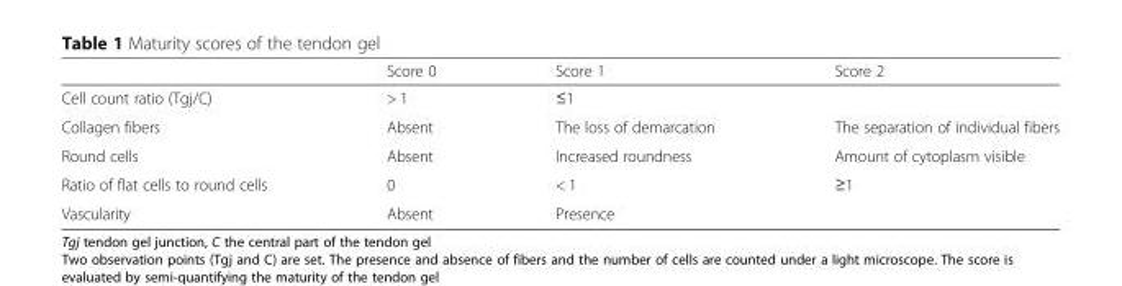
<table><thead><tr><td></td><td>Score 0</td><td>Score 1</td><td>Score 2</td></tr></thead><tbody><tr><td>Cell count ratio (Tgj/C)</td><td>&gt; 1</td><td>≤1</td><td></td></tr><tr><td>Collagen fibers</td><td>Absent</td><td>The loss of demarcation</td><td>The separation of individual fibers</td></tr><tr><td>Round cells</td><td>Absent</td><td>Increased roundness</td><td>Amount of cytoplasm visible</td></tr><tr><td>Ratio of flat cells to round cells</td><td>0</td><td>&lt; 1</td><td>≥1</td></tr><tr><td>Vascularity</td><td>Absent</td><td>Presence</td><td></td></tr></tbody></table>